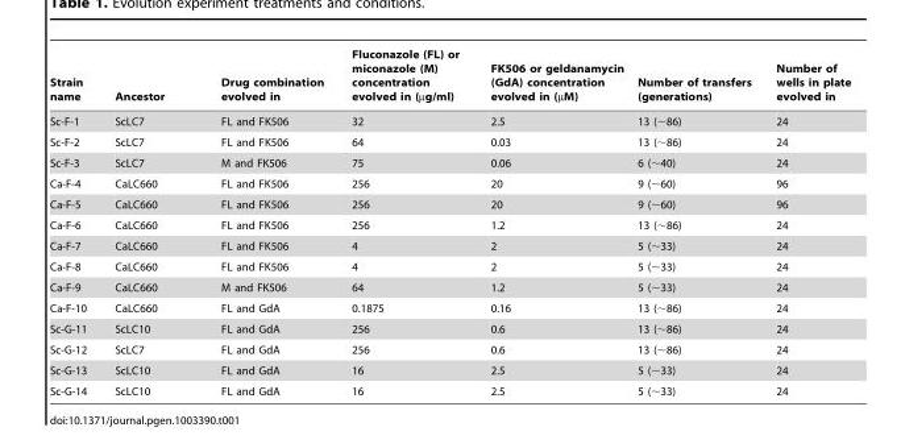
<table><thead><tr><td>Strain name</td><td>Ancestor</td><td>Drug combination evolved in</td><td>Fluconazole (FL) or miconazole (M) concentration evolved in (µg/ml)</td><td>FK506 or geldanamycin (GdA) concentration evolved in (µM)</td><td>Number of transfers (generations)</td><td>Number of wells in plate evolved in</td></tr></thead><tbody><tr><td>Sc-F-1</td><td>ScLC7</td><td>FL and FK506</td><td>32</td><td>2.5</td><td>13 (∼86)</td><td>24</td></tr><tr><td>Sc-F-2</td><td>ScLC7</td><td>FL and FK506</td><td>64</td><td>0.03</td><td>13 (∼86)</td><td>24</td></tr><tr><td>Sc-F-3</td><td>ScLC7</td><td>M and FK506</td><td>75</td><td>0.06</td><td>6 (∼40)</td><td>24</td></tr><tr><td>Ca-F-4</td><td>CaLC660</td><td>FL and FK506</td><td>256</td><td>20</td><td>9 (∼60)</td><td>96</td></tr><tr><td>Ca-F-5</td><td>CaLC660</td><td>FL and FK506</td><td>256</td><td>20</td><td>9 (∼60)</td><td>96</td></tr><tr><td>Ca-F-6</td><td>CaLC660</td><td>FL and FK506</td><td>256</td><td>1.2</td><td>13 (∼86)</td><td>24</td></tr><tr><td>Ca-F-7</td><td>CaLC660</td><td>FL and FK506</td><td>4</td><td>2</td><td>5 (∼33)</td><td>24</td></tr><tr><td>Ca-F-8</td><td>CaLC660</td><td>FL and FK506</td><td>4</td><td>2</td><td>5 (∼33)</td><td>24</td></tr><tr><td>Ca-F-9</td><td>CaLC660</td><td>M and FK506</td><td>64</td><td>1.2</td><td>5 (∼33)</td><td>24</td></tr><tr><td>Ca-F-10</td><td>CaLC660</td><td>FL and GdA</td><td>0.1875</td><td>0.16</td><td>13 (∼86)</td><td>24</td></tr><tr><td>Sc-G-11</td><td>ScLC10</td><td>FL and GdA</td><td>256</td><td>0.6</td><td>13 (∼86)</td><td>24</td></tr><tr><td>Sc-G-12</td><td>ScLC7</td><td>FL and GdA</td><td>256</td><td>0.6</td><td>13 (∼86)</td><td>24</td></tr><tr><td>Sc-G-13</td><td>ScLC10</td><td>FL and GdA</td><td>16</td><td>2.5</td><td>5 (∼33)</td><td>24</td></tr><tr><td>Sc-G-14</td><td>ScLC10</td><td>FL and GdA</td><td>16</td><td>2.5</td><td>5 (∼33)</td><td>24</td></tr></tbody></table>